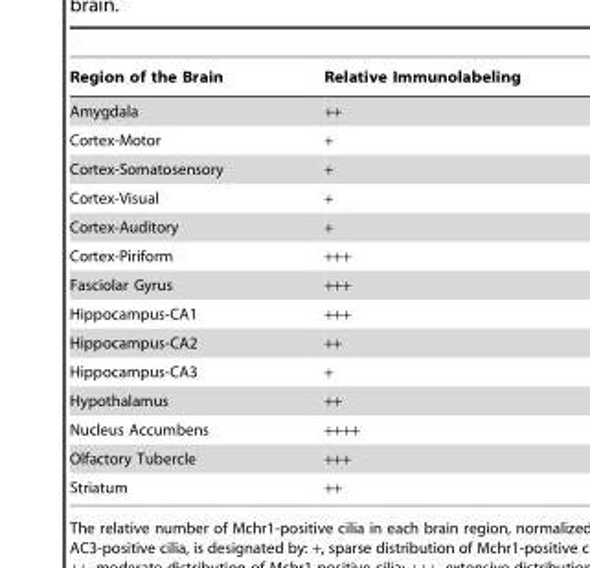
<table><thead><tr><td>Region of the Brain</td><td>Relative Immunolabeling</td></tr></thead><tbody><tr><td>Amygdala</td><td>++</td></tr><tr><td>Cortex-Motor</td><td>+</td></tr><tr><td>Cortex-Somatosensory</td><td>+</td></tr><tr><td>Cortex-Visual</td><td>+</td></tr><tr><td>Cortex-Auditory</td><td>+</td></tr><tr><td>Cortex-Piriform</td><td>+++</td></tr><tr><td>Fasciolar Gyrus</td><td>+++</td></tr><tr><td>Hippocampus-CA1</td><td>+++</td></tr><tr><td>Hippocampus-CA2</td><td>++</td></tr><tr><td>Hippocampus-CA3</td><td>+</td></tr><tr><td>Hypothalamus</td><td>++</td></tr><tr><td>Nucleus Accumbens</td><td>++++</td></tr><tr><td>Olfactory Tubercle</td><td>+++</td></tr><tr><td>Striatum</td><td>++</td></tr></tbody></table>